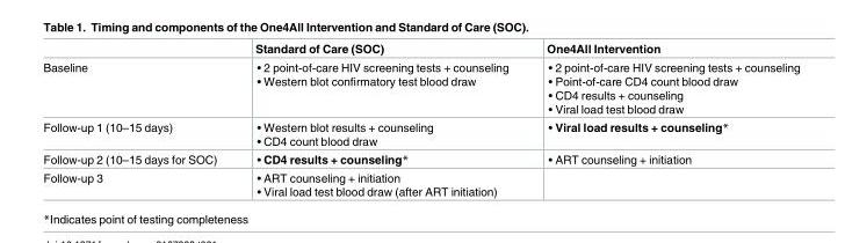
<table><thead><tr><td></td><td>Standard of Care (SOC)</td><td>One4All Intervention</td></tr></thead><tbody><tr><td>Baseline</td><td>• 2 point-of-care HIV screening tests + counseling • Western blot confirmatory test blood draw</td><td>• 2 point-of-care HIV screening tests + counseling • Point-of-care CD4 count blood draw • CD4 results + counseling • Viral load test blood draw</td></tr><tr><td>Follow-up 1 (10–15 days)</td><td>• Western blot results + counseling • CD4 count blood draw</td><td>• Viral load results + counseling*</td></tr><tr><td>Follow-up 2 (10–15 days for SOC)</td><td>• CD4 results + counseling*</td><td>• ART counseling + initiation</td></tr><tr><td>Follow-up 3</td><td>• ART counseling + initiation • Viral load test blood draw (after ART initiation)</td><td></td></tr></tbody></table>